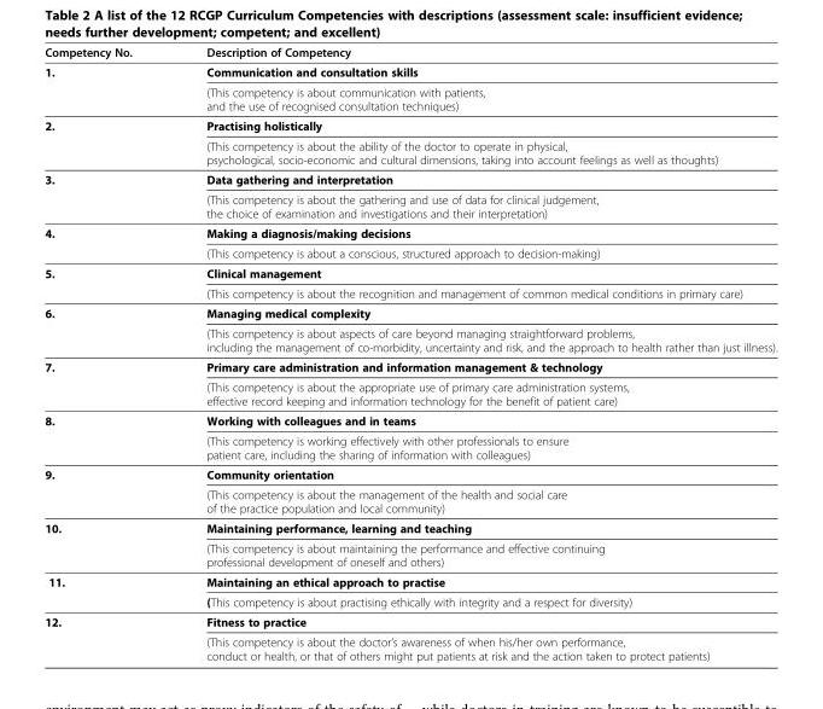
<table><thead><tr><td>Competency No.</td><td>Description of Competency</td></tr></thead><tbody><tr><td rowspan="2">1.</td><td>Communication and consultation skills</td></tr><tr><td>(This competency is about communication with patients, and the use of recognised consultation techniques)</td></tr><tr><td rowspan="2">2.</td><td>Practising holistically</td></tr><tr><td>(This competency is about the ability of the doctor to operate in physical, psychological, socio-economic and cultural dimensions, taking into account feelings as well as thoughts)</td></tr><tr><td rowspan="2">3.</td><td>Data gathering and interpretation</td></tr><tr><td>(This competency is about the gathering and use of data for clinical judgement, the choice of examination and investigations and their interpretation)</td></tr><tr><td rowspan="2">4.</td><td>Making a diagnosis/making decisions</td></tr><tr><td>(This competency is about a conscious, structured approach to decision-making)</td></tr><tr><td rowspan="2">5.</td><td>Clinical management</td></tr><tr><td>(This competency is about the recognition and management of common medical conditions in primary care)</td></tr><tr><td rowspan="2">6.</td><td>Managing medical complexity</td></tr><tr><td>(This competency is about aspects of care beyond managing straightforward problems, including the management of co-morbidity, uncertainty and risk, and the approach to health rather than just illness).</td></tr><tr><td rowspan="2">7.</td><td>Primary care administration and information management &amp; technology</td></tr><tr><td>(This competency is about the appropriate use of primary care administration systems, effective record keeping and information technology for the benefit of patient care)</td></tr><tr><td rowspan="2">8.</td><td>Working with colleagues and in teams</td></tr><tr><td>(This competency is working effectively with other professionals to ensure patient care, including the sharing of information with colleagues)</td></tr><tr><td rowspan="2">9.</td><td>Community orientation</td></tr><tr><td>(This competency is about the management of the health and social care of the practice population and local community)</td></tr><tr><td rowspan="2">10.</td><td>Maintaining performance, learning and teaching</td></tr><tr><td>(This competency is about maintaining the performance and effective continuing professional development of oneself and others)</td></tr><tr><td rowspan="2">11.</td><td>Maintaining an ethical approach to practise</td></tr><tr><td>(This competency is about practising ethically with integrity and a respect for diversity)</td></tr><tr><td rowspan="2">12.</td><td>Fitness to practice</td></tr><tr><td>(This competency is about the doctor’s awareness of when his/her own performance, conduct or health, or that of others might put patients at risk and the action taken to protect patients)</td></tr></tbody></table>